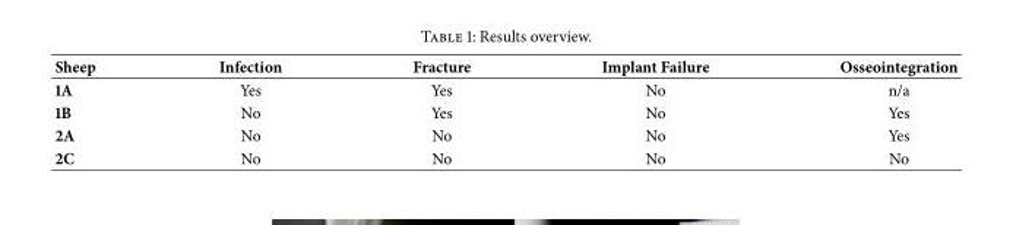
<table><thead><tr><td>Sheep</td><td>Infection</td><td>Fracture</td><td>Implant Failure</td><td>Osseointegration</td></tr></thead><tbody><tr><td>1A</td><td>Yes</td><td>Yes</td><td>No</td><td>n/a</td></tr><tr><td>1B</td><td>No</td><td>Yes</td><td>No</td><td>Yes</td></tr><tr><td>2A</td><td>No</td><td>No</td><td>No</td><td>Yes</td></tr><tr><td>2C</td><td>No</td><td>No</td><td>No</td><td>No</td></tr></tbody></table>